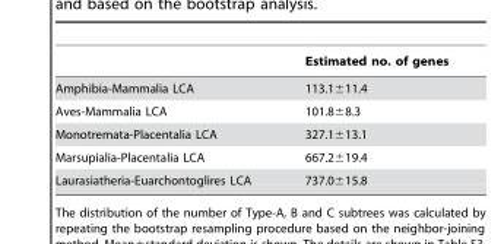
<table><thead><tr><td></td><td>Estimated no. of genes</td></tr></thead><tbody><tr><td>Amphibia-Mammalia LCA</td><td>113.1±11.4</td></tr><tr><td>Aves-Mammalia LCA</td><td>101.8±8.3</td></tr><tr><td>Monotremata-Placentalia LCA</td><td>327.1±13.1</td></tr><tr><td>Marsupialia-Placentalia LCA</td><td>667.2±19.4</td></tr><tr><td>Laurasiatheria-Euarchontoglires LCA</td><td>737.0±15.8</td></tr></tbody></table>